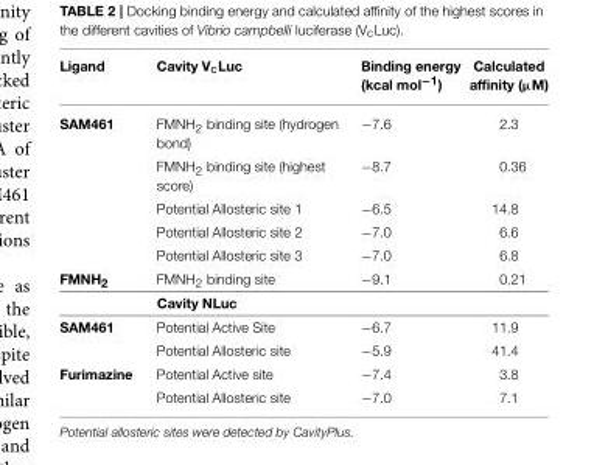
<table><thead><tr><td>Ligand</td><td>Cavity V<sub>c</sub>Luc</td><td>Binding energy (kcal mol<sup>−1</sup>)</td><td>Calculated affinity (µM)</td></tr></thead><tbody><tr><td rowspan="5">SAM461</td><td>FMNH<sub>2</sub> binding site (hydrogen bond)</td><td>−7.6</td><td>2.3</td></tr><tr><td>FMNH<sub>2</sub> binding site (highest score)</td><td>−8.7</td><td>0.36</td></tr><tr><td>Potential Allosteric site 1</td><td>−6.5</td><td>14.8</td></tr><tr><td>Potential Allosteric site 2</td><td>−7.0</td><td>6.6</td></tr><tr><td>Potential Allosteric site 3</td><td>−7.0</td><td>6.8</td></tr><tr><td>FMNH<sub>2</sub></td><td>FMNH<sub>2</sub> binding site</td><td>−9.1</td><td>0.21</td></tr><tr><td colspan="4">Cavity NLuc</td></tr><tr><td rowspan="2">SAM461</td><td>Potential Active Site</td><td>−6.7</td><td>11.9</td></tr><tr><td>Potential Allosteric site</td><td>−5.9</td><td>41.4</td></tr><tr><td rowspan="2">Furimazine</td><td>Potential Active site</td><td>−7.4</td><td>3.8</td></tr><tr><td>Potential Allosteric site</td><td>−7.0</td><td>7.1</td></tr></tbody></table>